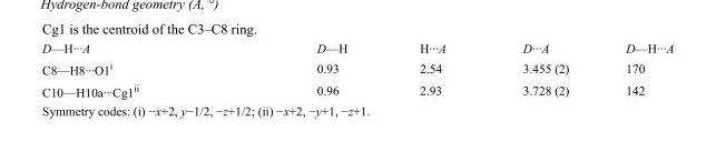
<table><tbody><tr><td>D—H···A</td><td>D—H</td><td>H···A</td><td>D···A</td><td>D—H···A</td></tr><tr><td>C8—H8···O1<sup>i</sup></td><td>0.93</td><td>2.54</td><td>3.455 (2)</td><td>170</td></tr><tr><td>C10—H10a···Cg1<sup>ii</sup></td><td>0.96</td><td>2.93</td><td>3.728 (2)</td><td>142</td></tr></tbody></table>